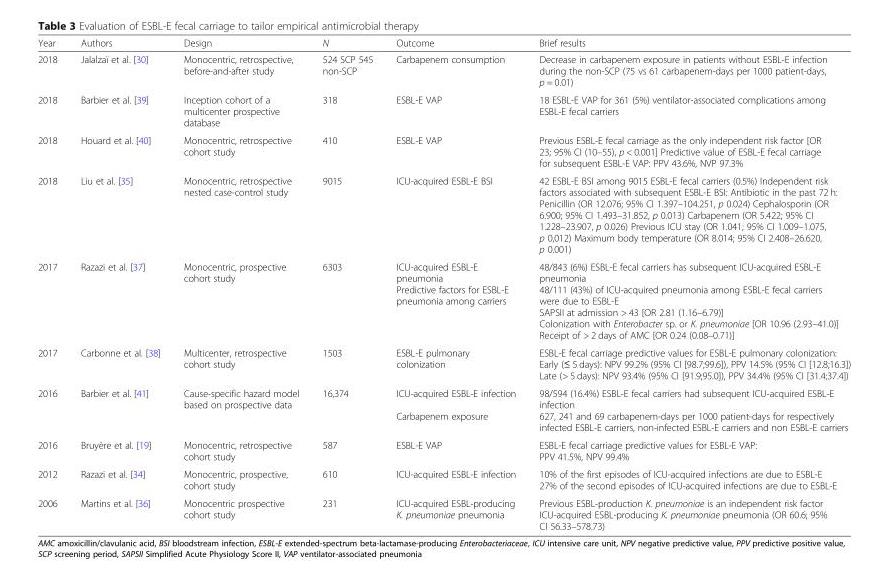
<table><thead><tr><td>Year</td><td>Authors</td><td>Design</td><td>N</td><td>Outcome</td><td>Brief results</td></tr></thead><tbody><tr><td>2018</td><td>Jalalzaï et al. [30]</td><td>Monocentric, retrospective, before-and-after study</td><td>524 SCP 545 non-SCP</td><td>Carbapenem consumption</td><td>Decrease in carbapenem exposure in patients without ESBL-E infection during the non-SCP (75 vs 61 carbapenem-days per 1000 patient-days, p = 0.01)</td></tr><tr><td>2018</td><td>Barbier et al. [39]</td><td>Inception cohort of a multicenter prospective database</td><td>318</td><td>ESBL-E VAP</td><td>18 ESBL-E VAP for 361 (5%) ventilator-associated complications among ESBL-E fecal carriers</td></tr><tr><td>2018</td><td>Houard et al. [40]</td><td>Monocentric, retrospective cohort study</td><td>410</td><td>ESBL-E VAP</td><td>Previous ESBL-E fecal carriage as the only independent risk factor [OR 23; 95% CI (10–55), p &lt; 0.001] Predictive value of ESBL-E fecal carriage for subsequent ESBL-E VAP: PPV 43.6%, NVP 97.3%</td></tr><tr><td>2018</td><td>Liu et al. [35]</td><td>Monocentric, retrospective nested case-control study</td><td>9015</td><td>ICU-acquired ESBL-E BSI</td><td>42 ESBL-E BSI among 9015 ESBL-E fecal carriers (0.5%) Independent risk factors associated with subsequent ESBL-E BSI: Antibiotic in the past 72 h: Penicillin (OR 12.076; 95% CI 1.397–104.251, p 0.024) Cephalosporin (OR 6.900; 95% CI 1.493–31.852, p 0.013) Carbapenem (OR 5.422; 95% CI 1.228–23.907, p 0.026) Previous ICU stay (OR 1.041; 95% CI 1.009–1.075, p 0,012) Maximum body temperature (OR 8.014; 95% CI 2.408–26.620, p 0.001)</td></tr><tr><td>2017</td><td>Razazi et al. [37]</td><td>Monocentric, prospective cohort study</td><td>6303</td><td>ICU-acquired ESBL-E pneumonia Predictive factors for ESBL-E pneumonia among carriers</td><td>48/843 (6%) ESBL-E fecal carriers has subsequent ICU-acquired ESBL-E pneumonia 48/111 (43%) of ICU-acquired pneumonia among ESBL-E fecal carriers were due to ESBL-E SAPSII at admission &gt; 43 [OR 2.81 (1.16–6.79)] Colonization with Enterobacter sp. or K. pneumoniae [OR 10.96 (2.93–41.0)] Receipt of &gt; 2 days of AMC [OR 0.24 (0.08–0.71)]</td></tr><tr><td>2017</td><td>Carbonne et al. [38]</td><td>Multicenter, retrospective cohort study</td><td>1503</td><td>ESBL-E pulmonary colonization</td><td>ESBL-E fecal carriage predictive values for ESBL-E pulmonary colonization: Early (≤ 5 days): NPV 99.2% (95% CI [98.7;99.6]), PPV 14.5% (95% CI [12.8;16.3]) Late (&gt; 5 days): NPV 93.4% (95% CI [91.9;95.0]), PPV 34.4% (95% CI [31.4;37.4])</td></tr><tr><td>2016</td><td>Barbier et al. [41]</td><td>Cause-specific hazard model based on prospective data</td><td>16,374</td><td>ICU-acquired ESBL-E infection Carbapenem exposure</td><td>98/594 (16.4%) ESBL-E fecal carriers had subsequent ICU-acquired ESBL-E infection 627, 241 and 69 carbapenem-days per 1000 patient-days for respectively infected ESBL-E carriers, non-infected ESBL-E carriers and non ESBL-E carriers</td></tr><tr><td>2016</td><td>Bruyère et al. [19]</td><td>Monocentric, retrospective cohort study</td><td>587</td><td>ESBL-E VAP</td><td>ESBL-E fecal carriage predictive values for ESBL-E VAP: PPV 41.5%, NPV 99.4%</td></tr><tr><td>2012</td><td>Razazi et al. [34]</td><td>Monocentric, prospective, cohort study</td><td>610</td><td>ICU-acquired ESBL-E infection</td><td>10% of the first episodes of ICU-acquired infections are due to ESBL-E 27% of the second episodes of ICU-acquired infections are due to ESBL-E</td></tr><tr><td>2006</td><td>Martins et al. [36]</td><td>Monocentric prospective cohort study</td><td>231</td><td>ICU-acquired ESBL-producing K. pneumoniae pneumonia</td><td>Previous ESBL-production K. pneumoniae is an independent risk factor ICU-acquired ESBL-producing K. pneumoniae pneumonia (OR 60.6; 95% CI 56.33–578.73)</td></tr></tbody></table>